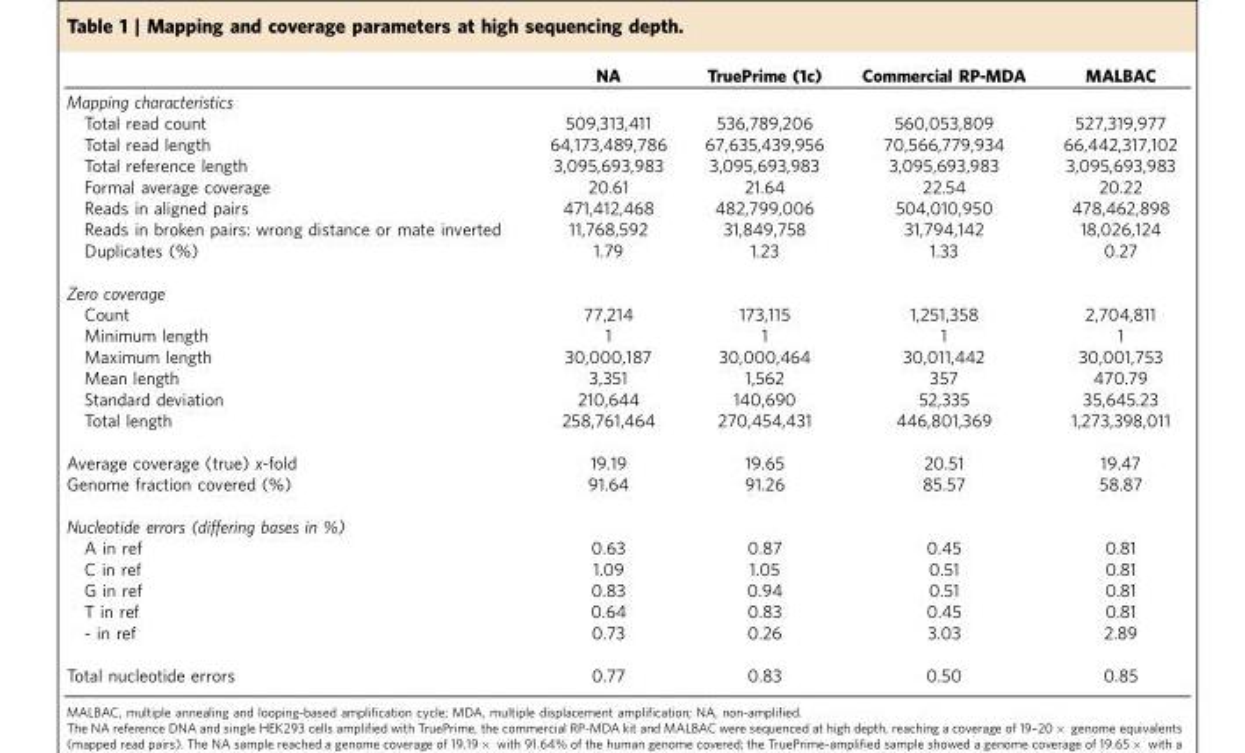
<table><thead><tr><td></td><td>NA</td><td>TruePrime (1c)</td><td>Commercial RP-MDA</td><td>MALBAC</td></tr></thead><tbody><tr><td colspan="5">Mapping characteristics</td></tr><tr><td>Total read count</td><td>509,313,411</td><td>536,789,206</td><td>560,053,809</td><td>527,319,977</td></tr><tr><td>Total read length</td><td>64,173,489,786</td><td>67,635,439,956</td><td>70,566,779,934</td><td>66,442,317,102</td></tr><tr><td>Total reference length</td><td>3,095,693,983</td><td>3,095,693,983</td><td>3,095,693,983</td><td>3,095,693,983</td></tr><tr><td>Formal average coverage</td><td>20.61</td><td>21.64</td><td>22.54</td><td>20.22</td></tr><tr><td>Reads in aligned pairs</td><td>471,412,468</td><td>482,799,006</td><td>504,010,950</td><td>478,462,898</td></tr><tr><td>Reads in broken pairs: wrong distance or mate inverted</td><td>11,768,592</td><td>31,849,758</td><td>31,794,142</td><td>18,026,124</td></tr><tr><td>Duplicates (%)</td><td>1.79</td><td>1.23</td><td>1.33</td><td>0.27</td></tr><tr><td colspan="5">Zero coverage</td></tr><tr><td>Count</td><td>77,214</td><td>173,115</td><td>1,251,358</td><td>2,704,811</td></tr><tr><td>Minimum length</td><td>1</td><td>1</td><td>1</td><td>1</td></tr><tr><td>Maximum length</td><td>30,000,187</td><td>30,000,464</td><td>30,011,442</td><td>30,001,753</td></tr><tr><td>Mean length</td><td>3,351</td><td>1,562</td><td>357</td><td>470.79</td></tr><tr><td>Standard deviation</td><td>210,644</td><td>140,690</td><td>52,335</td><td>35,645.23</td></tr><tr><td>Total length</td><td>258,761,464</td><td>270,454,431</td><td>446,801,369</td><td>1,273,398,011</td></tr><tr><td>Average coverage (true) x-fold</td><td>19.19</td><td>19.65</td><td>20.51</td><td>19.47</td></tr><tr><td>Genome fraction covered (%)</td><td>91.64</td><td>91.26</td><td>85.57</td><td>58.87</td></tr><tr><td colspan="5">Nucleotide errors (differing bases in %)</td></tr><tr><td>A in ref</td><td>0.63</td><td>0.87</td><td>0.45</td><td>0.81</td></tr><tr><td>C in ref</td><td>1.09</td><td>1.05</td><td>0.51</td><td>0.81</td></tr><tr><td>G in ref</td><td>0.83</td><td>0.94</td><td>0.51</td><td>0.81</td></tr><tr><td>T in ref</td><td>0.64</td><td>0.83</td><td>0.45</td><td>0.81</td></tr><tr><td>- in ref</td><td>0.73</td><td>0.26</td><td>3.03</td><td>2.89</td></tr><tr><td>Total nucleotide errors</td><td>0.77</td><td>0.83</td><td>0.50</td><td>0.85</td></tr></tbody></table>